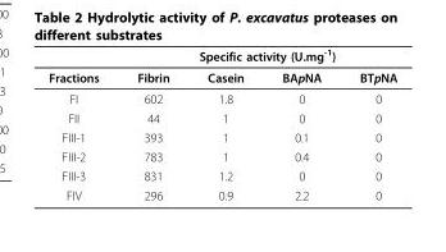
<table><thead><tr><td rowspan="2">Fractions</td><td colspan="4">Specific activity (U.mg<sup>-1</sup>)</td></tr><tr><td>Fibrin</td><td>Casein</td><td>BApNA</td><td>BTpNA</td></tr></thead><tbody><tr><td>FI</td><td>602</td><td>1.8</td><td>0</td><td>0</td></tr><tr><td>FII</td><td>44</td><td>1</td><td>0</td><td>0</td></tr><tr><td>FIII-1</td><td>393</td><td>1</td><td>0.1</td><td>0</td></tr><tr><td>FIII-2</td><td>783</td><td>1</td><td>0.4</td><td>0</td></tr><tr><td>FIII-3</td><td>831</td><td>1.2</td><td>0</td><td>0</td></tr><tr><td>FIV</td><td>296</td><td>0.9</td><td>2.2</td><td>0</td></tr></tbody></table>